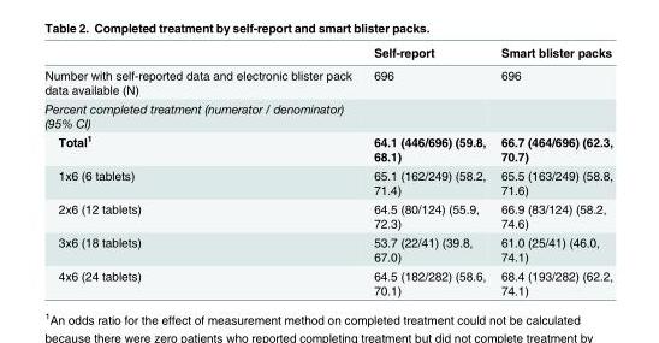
<table><thead><tr><td></td><td>Self-report</td><td>Smart blister packs</td></tr></thead><tbody><tr><td>Number with self-reported data and electronic blister pack data available (N)</td><td>696</td><td>696</td></tr><tr><td colspan="3">Percent completed treatment (numerator / denominator) (95% CI)</td></tr><tr><td>Total<sup>1</sup></td><td>64.1 (446/696) (59.8, 68.1)</td><td>66.7 (464/696) (62.3, 70.7)</td></tr><tr><td>1x6 (6 tablets)</td><td>65.1 (162/249) (58.2, 71.4)</td><td>65.5 (163/249) (58.8, 71.6)</td></tr><tr><td>2x6 (12 tablets)</td><td>64.5 (80/124) (55.9, 72.3)</td><td>66.9 (83/124) (58.2, 74.6)</td></tr><tr><td>3x6 (18 tablets)</td><td>53.7 (22/41) (39.8, 67.0)</td><td>61.0 (25/41) (46.0, 74.1)</td></tr><tr><td>4x6 (24 tablets)</td><td>64.5 (182/282) (58.6, 70.1)</td><td>68.4 (193/282) (62.2, 74.1)</td></tr></tbody></table>